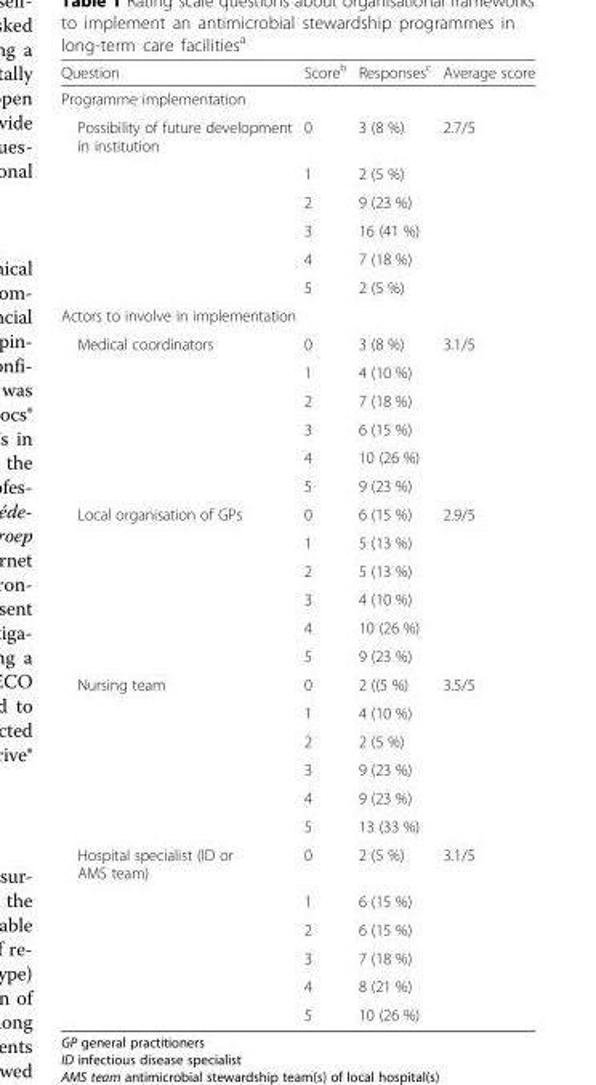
<table><thead><tr><td>Question</td><td>Score<sup>b</sup></td><td>Responses<sup>c</sup></td><td>Average score</td></tr></thead><tbody><tr><td colspan="4">Programme implementation</td></tr><tr><td rowspan="6">Possibility of future development in institution</td><td>0</td><td>3 (8 %)</td><td>2.7/5</td></tr><tr><td>1</td><td>2 (5 %)</td><td></td></tr><tr><td>2</td><td>9 (23 %)</td><td></td></tr><tr><td>3</td><td>16 (41 %)</td><td></td></tr><tr><td>4</td><td>7 (18 %)</td><td></td></tr><tr><td>5</td><td>2 (5 %)</td><td></td></tr><tr><td colspan="4">Actors to involve in implementation</td></tr><tr><td rowspan="6">Medical coordinators</td><td>0</td><td>3 (8 %)</td><td>3.1/5</td></tr><tr><td>1</td><td>4 (10 %)</td><td></td></tr><tr><td>2</td><td>7 (18 %)</td><td></td></tr><tr><td>3</td><td>6 (15 %)</td><td></td></tr><tr><td>4</td><td>10 (26 %)</td><td></td></tr><tr><td>5</td><td>9 (23 %)</td><td></td></tr><tr><td rowspan="6">Local organisation of GPs</td><td>0</td><td>6 (15 %)</td><td>2.9/5</td></tr><tr><td>1</td><td>5 (13 %)</td><td></td></tr><tr><td>2</td><td>5 (13 %)</td><td></td></tr><tr><td>3</td><td>4 (10 %)</td><td></td></tr><tr><td>4</td><td>10 (26 %)</td><td></td></tr><tr><td>5</td><td>9 (23 %)</td><td></td></tr><tr><td rowspan="6">Nursing team</td><td>0</td><td>2 ((5 %)</td><td>3.5/5</td></tr><tr><td>1</td><td>4 (10 %)</td><td></td></tr><tr><td>2</td><td>2 (5 %)</td><td></td></tr><tr><td>3</td><td>9 (23 %)</td><td></td></tr><tr><td>4</td><td>9 (23 %)</td><td></td></tr><tr><td>5</td><td>13 (33 %)</td><td></td></tr><tr><td rowspan="6">Hospital specialist (ID or AMS team)</td><td>0</td><td>2 (5 %)</td><td>3.1/5</td></tr><tr><td>1</td><td>6 (15 %)</td><td></td></tr><tr><td>2</td><td>6 (15 %)</td><td></td></tr><tr><td>3</td><td>7 (18 %)</td><td></td></tr><tr><td>4</td><td>8 (21 %)</td><td></td></tr><tr><td>5</td><td>10 (26 %)</td><td></td></tr></tbody></table>